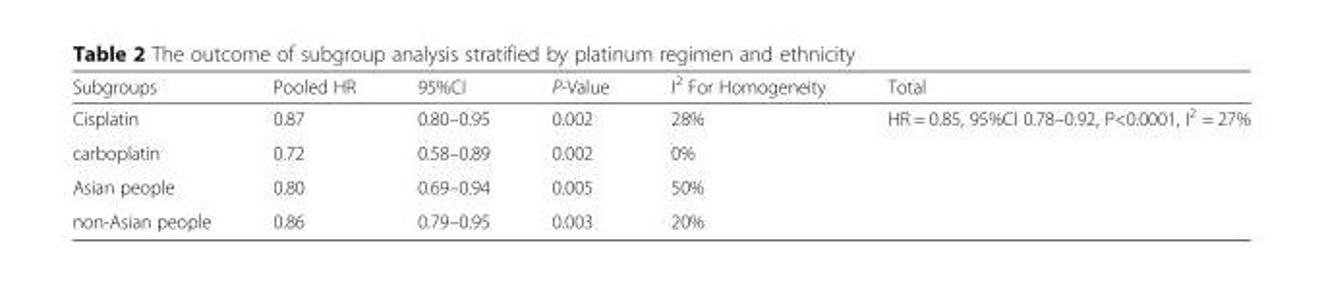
<table><thead><tr><td>Subgroups</td><td>Pooled HR</td><td>95%CI</td><td>P-Value</td><td>I<sup>2</sup> For Homogeneity</td><td>Total</td></tr></thead><tbody><tr><td>Cisplatin</td><td>0.87</td><td>0.80–0.95</td><td>0.002</td><td>28%</td><td rowspan="4">HR = 0.85, 95%CI 0.78–0.92, P&lt;0.0001, I<sup>2</sup> = 27%</td></tr><tr><td>carboplatin</td><td>0.72</td><td>0.58–0.89</td><td>0.002</td><td>0%</td></tr><tr><td>Asian people</td><td>0.80</td><td>0.69–0.94</td><td>0.005</td><td>50%</td></tr><tr><td>non-Asian people</td><td>0.86</td><td>0.79–0.95</td><td>0.003</td><td>20%</td></tr></tbody></table>